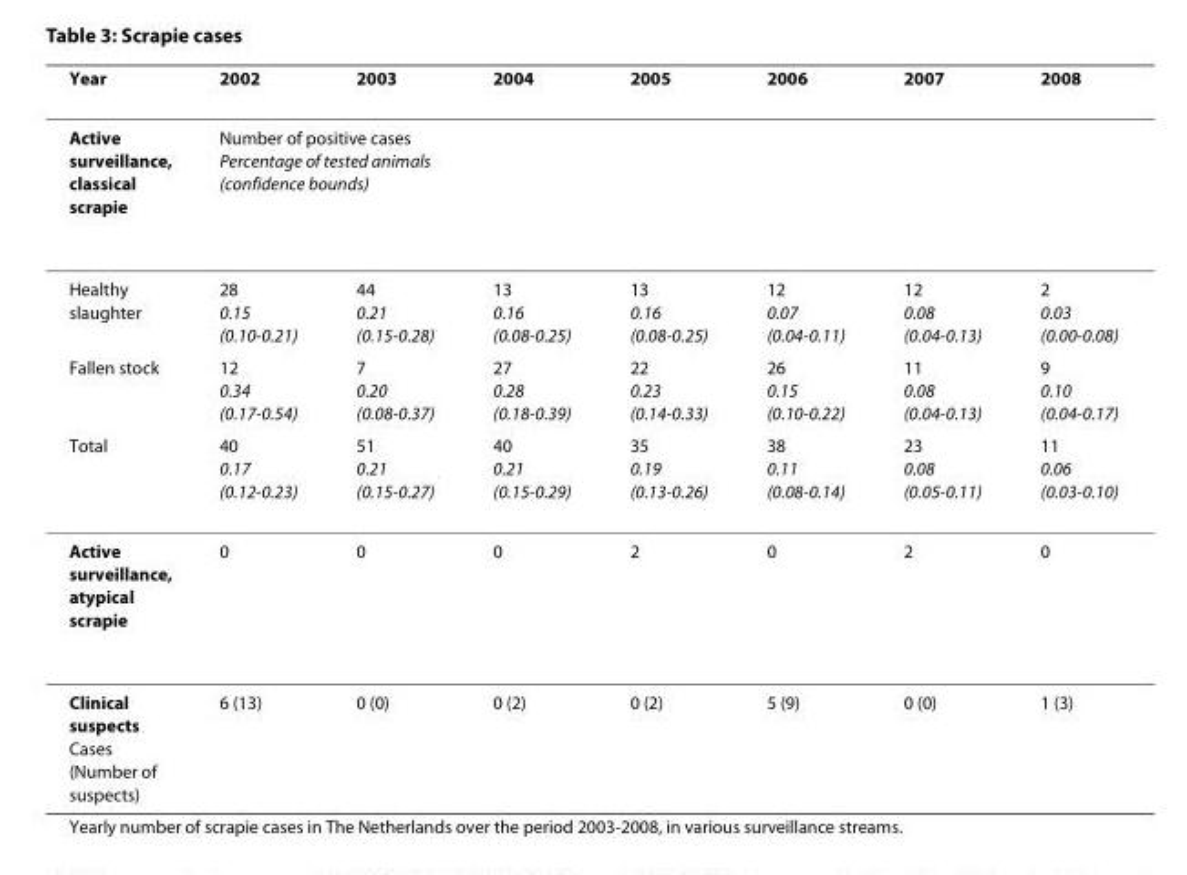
<table><thead><tr><td>Year</td><td>2002</td><td>2003</td><td>2004</td><td>2005</td><td>2006</td><td>2007</td><td>2008</td></tr></thead><tbody><tr><td>Active surveillance, classical scrapie</td><td colspan="7">Number of positive cases Percentage of tested animals (confidence bounds)</td></tr><tr><td>Healthy slaughter</td><td>28 0.15 (0.10-0.21)</td><td>44 0.21 (0.15-0.28)</td><td>13 0.16 (0.08-0.25)</td><td>13 0.16 (0.08-0.25)</td><td>12 0.07 (0.04-0.11)</td><td>12 0.08 (0.04-0.13)</td><td>2 0.03 (0.00-0.08)</td></tr><tr><td>Fallen stock</td><td>12 0.34 (0.17-0.54)</td><td>7 0.20 (0.08-0.37)</td><td>27 0.28 (0.18-0.39)</td><td>22 0.23 (0.14-0.33)</td><td>26 0.15 (0.10-0.22)</td><td>11 0.08 (0.04-0.13)</td><td>9 0.10 (0.04-0.17)</td></tr><tr><td>Total</td><td>40 0.17 (0.12-0.23)</td><td>51 0.21 (0.15-0.27)</td><td>40 0.21 (0.15-0.29)</td><td>35 0.19 (0.13-0.26)</td><td>38 0.11 (0.08-0.14)</td><td>23 0.08 (0.05-0.11)</td><td>11 0.06 (0.03-0.10)</td></tr><tr><td>Active surveillance, atypical scrapie</td><td>0</td><td>0</td><td>0</td><td>2</td><td>0</td><td>2</td><td>0</td></tr><tr><td>Clinical suspects Cases (Number of suspects)</td><td>6 (13)</td><td>0 (0)</td><td>0 (2)</td><td>0 (2)</td><td>5 (9)</td><td>0 (0)</td><td>1 (3)</td></tr></tbody></table>